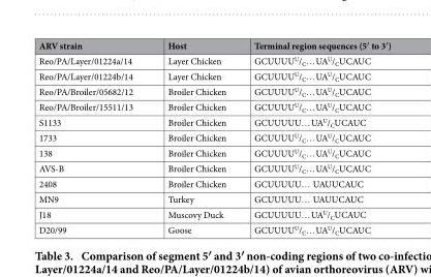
<table><thead><tr><td>ARV strain</td><td>Host</td><td>Terminal region sequences (5′ to 3′ )</td></tr></thead><tbody><tr><td>Reo/PA/Layer/01224a/14</td><td>Layer Chicken</td><td>GCUUUU<sup>U</sup>/<sub>C</sub>… UA<sup>U</sup>/<sub>C</sub>UCAUC</td></tr><tr><td>Reo/PA/Layer/01224b/14</td><td>Layer Chicken</td><td>GCUUUU<sup>U</sup>/<sub>C</sub>… UA<sup>U</sup>/<sub>C</sub>UCAUC</td></tr><tr><td>Reo/PA/Broiler/05682/12</td><td>Broiler Chicken</td><td>GCUUUU<sup>U</sup>/<sub>C</sub>… UA<sup>U</sup>/<sub>C</sub>UCAUC</td></tr><tr><td>Reo/PA/Broiler/15511/13</td><td>Broiler Chicken</td><td>GCUUUU<sup>U</sup>/<sub>C</sub>… UA<sup>U</sup>/<sub>C</sub>UCAUC</td></tr><tr><td>S1133</td><td>Broiler Chicken</td><td>GCUUUUU… UA<sup>U</sup>/<sub>C</sub>UCAUC</td></tr><tr><td>1733</td><td>Broiler Chicken</td><td>GCUUUU<sup>U</sup>/<sub>C</sub>… UA<sup>U</sup>/<sub>C</sub>UCAUC</td></tr><tr><td>138</td><td>Broiler Chicken</td><td>GCUUUU<sup>U</sup>/<sub>C</sub>… UA<sup>U</sup>/<sub>C</sub>UCAUC</td></tr><tr><td>AVS-B</td><td>Broiler Chicken</td><td>GCUUUU<sup>U</sup>/<sub>C</sub>… UA<sup>U</sup>/<sub>C</sub>UCAUC</td></tr><tr><td>2408</td><td>Broiler Chicken</td><td>GCUUUUU… UAUUCAUC</td></tr><tr><td>MN9</td><td>Turkey</td><td>GCUUUUU… UAUUCAUC</td></tr><tr><td>J18</td><td>Muscovy Duck</td><td>GCUUUUU… UA<sup>U</sup>/<sub>C</sub>UCAUC</td></tr><tr><td>D20/99</td><td>Goose</td><td>GCUUUU<sup>U</sup>/<sub>C</sub>… UA<sup>U</sup>/<sub>C</sub>UCAUC</td></tr></tbody></table>